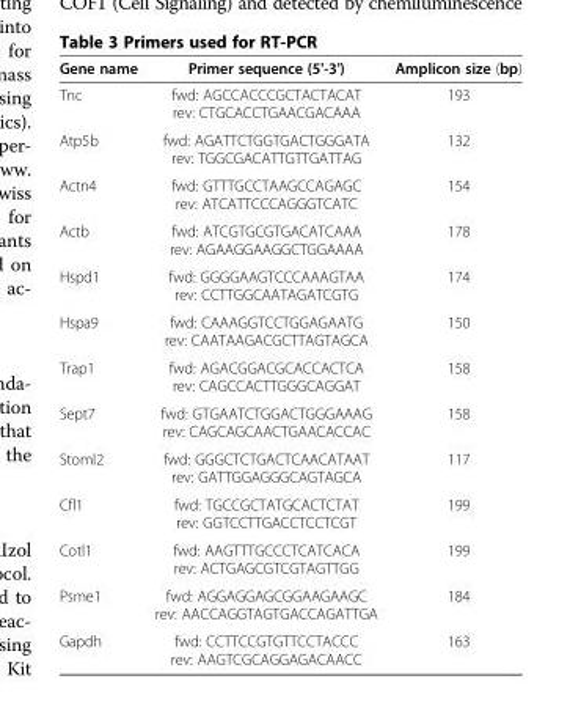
<table><thead><tr><td>Gene name</td><td>Primer sequence (5&#x27;-3&#x27;)</td><td>Amplicon size (bp)</td></tr></thead><tbody><tr><td>Tnc</td><td>fwd: AGCCACCCGCTACTACAT rev: CTGCACCTGAACGACAAA</td><td>193</td></tr><tr><td>Atp5b</td><td>fwd: AGATTCTGGTGACTGGGATA rev: TGGCGACATTGTTGATTAG</td><td>132</td></tr><tr><td>Actn4</td><td>fwd: GTTTGCCTAAGCCAGAGC rev: ATCATTCCCAGGGTCATC</td><td>154</td></tr><tr><td>Actb</td><td>fwd: ATCGTGCGTGACATCAAA rev: AGAAGGAAGGCTGGAAAA</td><td>178</td></tr><tr><td>Hspd1</td><td>fwd: GGGGAAGTCCCAAAGTAA rev: CCTTGGCAATAGATCGTG</td><td>174</td></tr><tr><td>Hspa9</td><td>fwd: CAAAGGTCCTGGAGAATG rev: CAATAAGACGCTTAGTAGCA</td><td>150</td></tr><tr><td>Trap1</td><td>fwd: AGACGGACGCACCACTCA rev: CAGCCACTTGGGCAGGAT</td><td>158</td></tr><tr><td>Sept7</td><td>fwd: GTGAATCTGGACTGGGAAAG rev: CAGCAGCAACTGAACACCAC</td><td>158</td></tr><tr><td>Stoml2</td><td>fwd: GGGCTCTGACTCAACATAAT rev: GATTGGAGGGCAGTAGCA</td><td>117</td></tr><tr><td>Cfl1</td><td>fwd: TGCCGCTATGCACTCTAT rev: GGTCCTTGACCTCCTCGT</td><td>199</td></tr><tr><td>Cotl1</td><td>fwd: AAGTTTGCCCTCATCACA rev: ACTGAGCGTCGTAGTTGG</td><td>199</td></tr><tr><td>Psme1</td><td>fwd: AGGAGGAGCGGAAGAAGC rev: AACCAGGTAGTGACCAGATTGA</td><td>184</td></tr><tr><td>Gapdh</td><td>fwd: CCTTCCGTGTTCCTACCC rev: AAGTCGCAGGAGACAACC</td><td>163</td></tr></tbody></table>